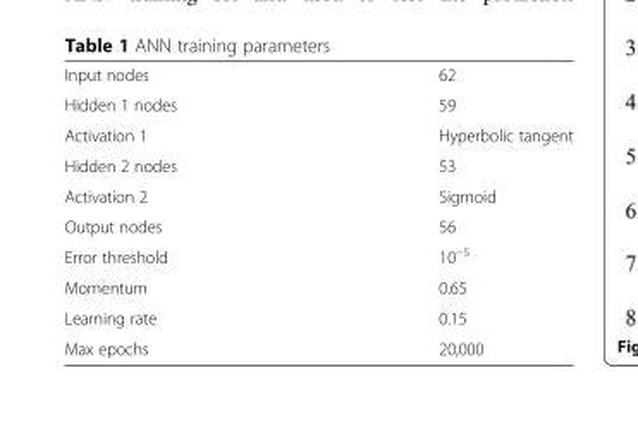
<table><tbody><tr><td>Input nodes</td><td>62</td></tr><tr><td>Hidden 1 nodes</td><td>59</td></tr><tr><td>Activation 1</td><td>Hyperbolic tangent</td></tr><tr><td>Hidden 2 nodes</td><td>53</td></tr><tr><td>Activation 2</td><td>Sigmoid</td></tr><tr><td>Output nodes</td><td>56</td></tr><tr><td>Error threshold</td><td>10<sup>−5</sup></td></tr><tr><td>Momentum</td><td>0.65</td></tr><tr><td>Learning rate</td><td>0.15</td></tr><tr><td>Max epochs</td><td>20,000</td></tr></tbody></table>